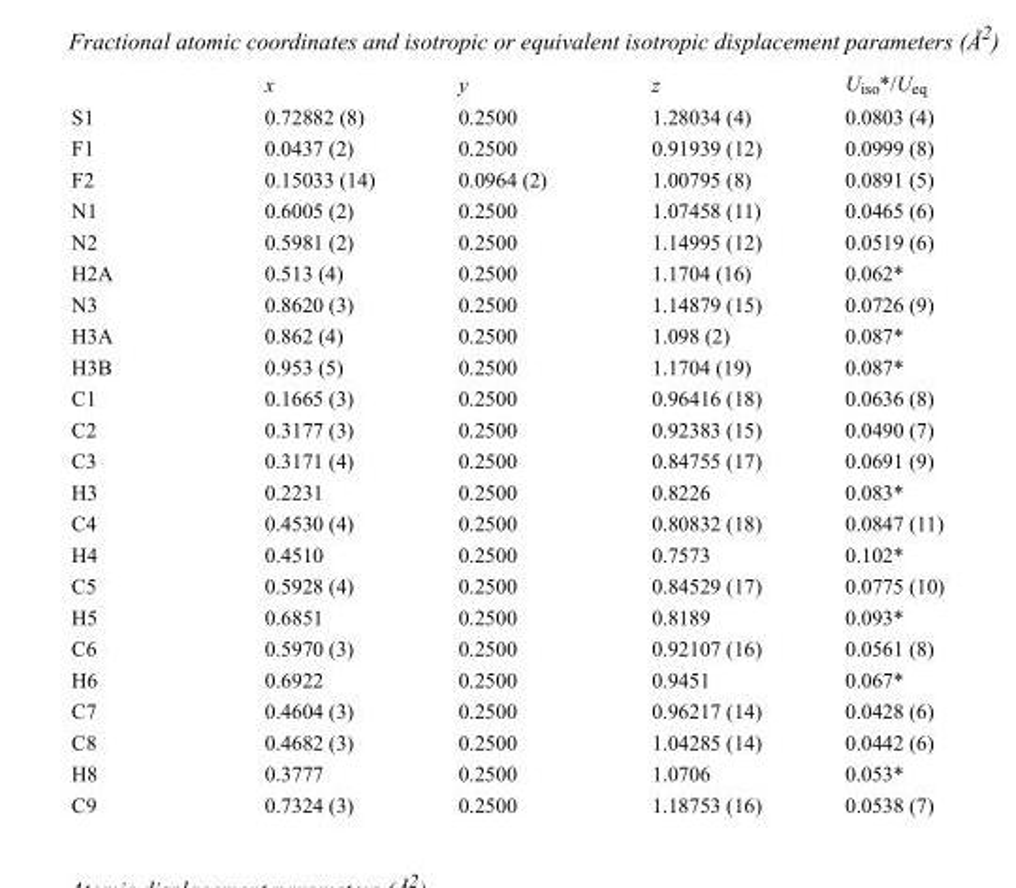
<table><thead><tr><td></td><td>x</td><td>y</td><td>z</td><td>U<sub>iso</sub>*/U<sub>eq</sub></td></tr></thead><tbody><tr><td>S1</td><td>0.72882 (8)</td><td>0.2500</td><td>1.28034 (4)</td><td>0.0803 (4)</td></tr><tr><td>F1</td><td>0.0437 (2)</td><td>0.2500</td><td>0.91939 (12)</td><td>0.0999 (8)</td></tr><tr><td>F2</td><td>0.15033 (14)</td><td>0.0964 (2)</td><td>1.00795 (8)</td><td>0.0891 (5)</td></tr><tr><td>N1</td><td>0.6005 (2)</td><td>0.2500</td><td>1.07458 (11)</td><td>0.0465 (6)</td></tr><tr><td>N2</td><td>0.5981 (2)</td><td>0.2500</td><td>1.14995 (12)</td><td>0.0519 (6)</td></tr><tr><td>H2A</td><td>0.513 (4)</td><td>0.2500</td><td>1.1704 (16)</td><td>0.062*</td></tr><tr><td>N3</td><td>0.8620 (3)</td><td>0.2500</td><td>1.14879 (15)</td><td>0.0726 (9)</td></tr><tr><td>H3A</td><td>0.862 (4)</td><td>0.2500</td><td>1.098 (2)</td><td>0.087*</td></tr><tr><td>H3B</td><td>0.953 (5)</td><td>0.2500</td><td>1.1704 (19)</td><td>0.087*</td></tr><tr><td>C1</td><td>0.1665 (3)</td><td>0.2500</td><td>0.96416 (18)</td><td>0.0636 (8)</td></tr><tr><td>C2</td><td>0.3177 (3)</td><td>0.2500</td><td>0.92383 (15)</td><td>0.0490 (7)</td></tr><tr><td>C3</td><td>0.3171 (4)</td><td>0.2500</td><td>0.84755 (17)</td><td>0.0691 (9)</td></tr><tr><td>H3</td><td>0.2231</td><td>0.2500</td><td>0.8226</td><td>0.083*</td></tr><tr><td>C4</td><td>0.4530 (4)</td><td>0.2500</td><td>0.80832 (18)</td><td>0.0847 (11)</td></tr><tr><td>H4</td><td>0.4510</td><td>0.2500</td><td>0.7573</td><td>0.102*</td></tr><tr><td>C5</td><td>0.5928 (4)</td><td>0.2500</td><td>0.84529 (17)</td><td>0.0775 (10)</td></tr><tr><td>H5</td><td>0.6851</td><td>0.2500</td><td>0.8189</td><td>0.093*</td></tr><tr><td>C6</td><td>0.5970 (3)</td><td>0.2500</td><td>0.92107 (16)</td><td>0.0561 (8)</td></tr><tr><td>H6</td><td>0.6922</td><td>0.2500</td><td>0.9451</td><td>0.067*</td></tr><tr><td>C7</td><td>0.4604 (3)</td><td>0.2500</td><td>0.96217 (14)</td><td>0.0428 (6)</td></tr><tr><td>C8</td><td>0.4682 (3)</td><td>0.2500</td><td>1.04285 (14)</td><td>0.0442 (6)</td></tr><tr><td>H8</td><td>0.3777</td><td>0.2500</td><td>1.0706</td><td>0.053*</td></tr><tr><td>C9</td><td>0.7324 (3)</td><td>0.2500</td><td>1.18753 (16)</td><td>0.0538 (7)</td></tr></tbody></table>